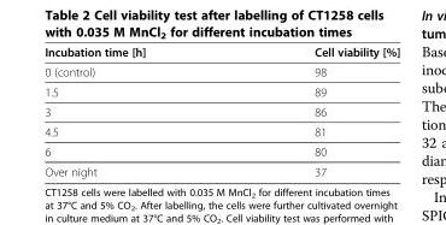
<table><thead><tr><td>Incubation time [h]</td><td>Cell viability [%]</td></tr></thead><tbody><tr><td>0 (control)</td><td>98</td></tr><tr><td>1.5</td><td>89</td></tr><tr><td>3</td><td>86</td></tr><tr><td>4.5</td><td>81</td></tr><tr><td>6</td><td>80</td></tr><tr><td>Over night</td><td>37</td></tr></tbody></table>